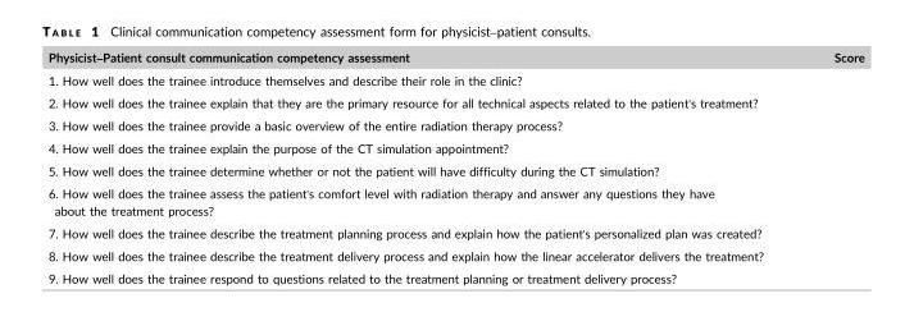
<table><thead><tr><td>Physicist–Patient consult communication competency assessment</td><td>Score</td></tr></thead><tbody><tr><td colspan="2">1. How well does the trainee introduce themselves and describe their role in the clinic?</td></tr><tr><td colspan="2">2. How well does the trainee explain that they are the primary resource for all technical aspects related to the patient&#x27;s treatment?</td></tr><tr><td colspan="2">3. How well does the trainee provide a basic overview of the entire radiation therapy process?</td></tr><tr><td colspan="2">4. How well does the trainee explain the purpose of the CT simulation appointment?</td></tr><tr><td colspan="2">5. How well does the trainee determine whether or not the patient will have difficulty during the CT simulation?</td></tr><tr><td colspan="2">6. How well does the trainee assess the patient&#x27;s comfort level with radiation therapy and answer any questions they have about the treatment process?</td></tr><tr><td colspan="2">7. How well does the trainee describe the treatment planning process and explain how the patient&#x27;s personalized plan was created?</td></tr><tr><td colspan="2">8. How well does the trainee describe the treatment delivery process and explain how the linear accelerator delivers the treatment?</td></tr><tr><td>9. How well does the trainee respond to questions related to the treatment planning or treatment delivery process?</td><td></td></tr></tbody></table>